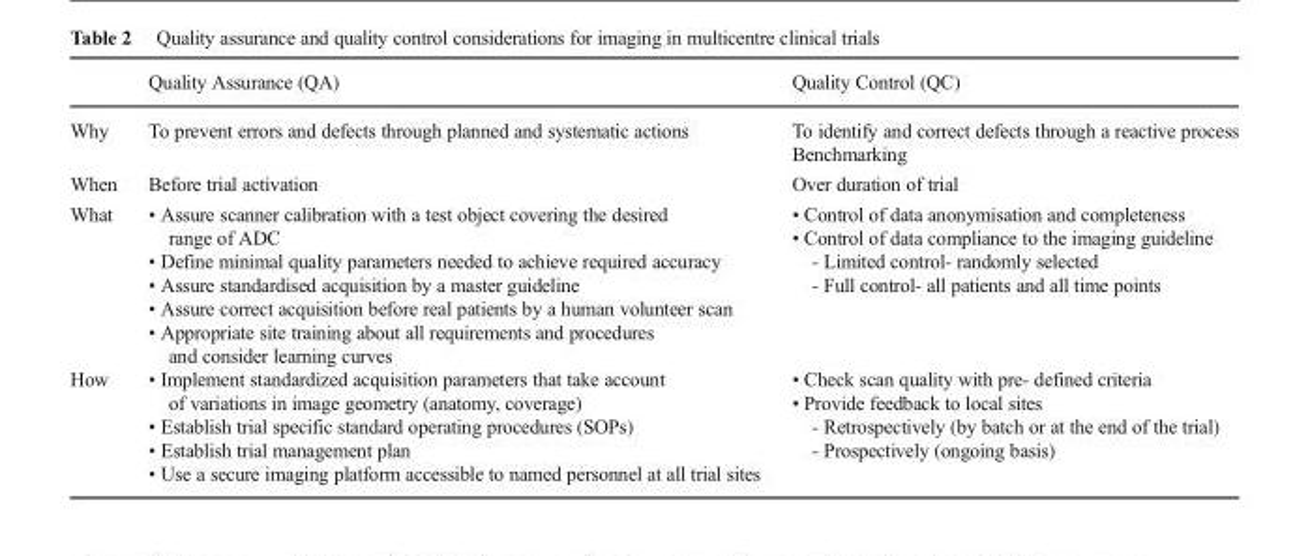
<table><thead><tr><td></td><td>Quality Assurance (QA)</td><td>Quality Control (QC)</td></tr></thead><tbody><tr><td>Why</td><td>To prevent errors and defects through planned and systematic actions</td><td>To identify and correct defects through a reactive process Benchmarking</td></tr><tr><td>When</td><td>Before trial activation</td><td>Over duration of trial</td></tr><tr><td>What</td><td>• Assure scanner calibration with a test object covering the desired range of ADC • Define minimal quality parameters needed to achieve required accuracy • Assure standardised acquisition by a master guideline • Assure correct acquisition before real patients by a human volunteer scan • Appropriate site training about all requirements and procedures and consider learning curves</td><td>• Control of data anonymisation and completeness • Control of data compliance to the imaging guideline - Limited control- randomly selected - Full control- all patients and all time points</td></tr><tr><td>How</td><td>• Implement standardized acquisition parameters that take account of variations in image geometry (anatomy, coverage) • Establish trial specific standard operating procedures (SOPs) • Establish trial management plan • Use a secure imaging platform accessible to named personnel at all trial sites</td><td>• Check scan quality with pre- defined criteria • Provide feedback to local sites - Retrospectively (by batch or at the end of the trial) - Prospectively (ongoing basis)</td></tr></tbody></table>